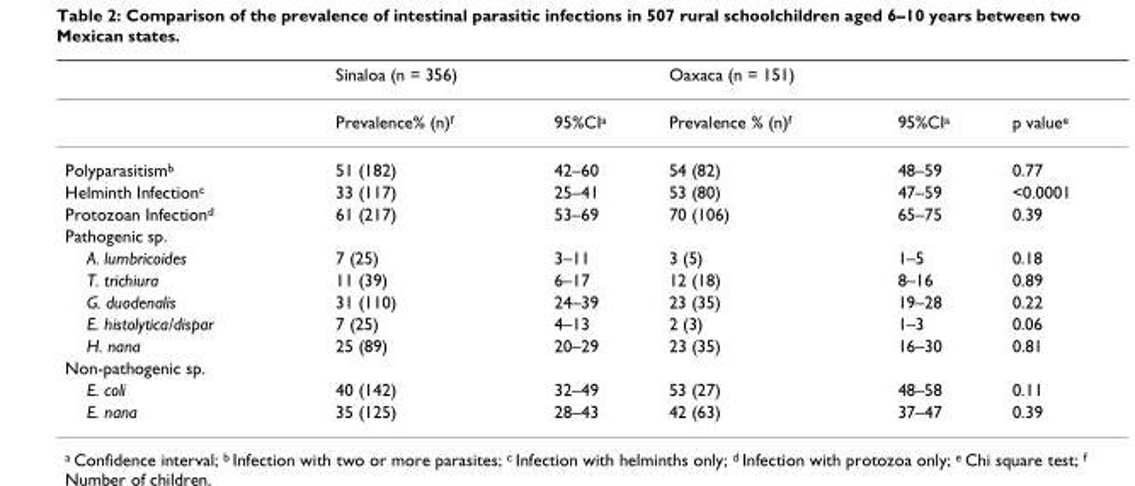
<table><thead><tr><td rowspan="2"></td><td colspan="2">Sinaloa (n = 356)</td><td colspan="3">Oaxaca (n = 151)</td></tr><tr><td>Prevalence% (n)f</td><td>95%CIa</td><td>Prevalence % (n)f</td><td>95%CIa</td><td>p valuee</td></tr></thead><tbody><tr><td>Polyparasitismb</td><td>51 (182)</td><td>42–60</td><td>54 (82)</td><td>48–59</td><td>0.77</td></tr><tr><td>Helminth Infectionc</td><td>33 (117)</td><td>25–41</td><td>53 (80)</td><td>47–59</td><td>&lt;0.0001</td></tr><tr><td>Protozoan Infectiond</td><td>61 (217)</td><td>53–69</td><td>70 (106)</td><td>65–75</td><td>0.39</td></tr><tr><td colspan="6">Pathogenic sp.</td></tr><tr><td>A. lumbricoides</td><td>7 (25)</td><td>3–11</td><td>3 (5)</td><td>1–5</td><td>0.18</td></tr><tr><td>T. trichiura</td><td>11 (39)</td><td>6–17</td><td>12 (18)</td><td>8–16</td><td>0.89</td></tr><tr><td>G. duodenalis</td><td>31 (110)</td><td>24–39</td><td>23 (35)</td><td>19–28</td><td>0.22</td></tr><tr><td>E. histolytica/dispar</td><td>7 (25)</td><td>4–13</td><td>2 (3)</td><td>1–3</td><td>0.06</td></tr><tr><td>H. nana</td><td>25 (89)</td><td>20–29</td><td>23 (35)</td><td>16–30</td><td>0.81</td></tr><tr><td colspan="6">Non-pathogenic sp.</td></tr><tr><td>E. coli</td><td>40 (142)</td><td>32–49</td><td>53 (27)</td><td>48–58</td><td>0.11</td></tr><tr><td>E. nana</td><td>35 (125)</td><td>28–43</td><td>42 (63)</td><td>37–47</td><td>0.39</td></tr></tbody></table>